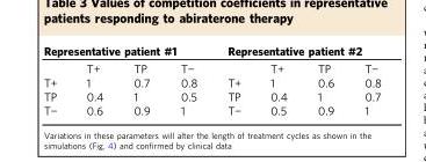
<table><thead><tr><td colspan="4">Representative patient #1</td><td colspan="4">Representative patient #2</td></tr><tr><td></td><td>T+</td><td>TP</td><td>T−</td><td></td><td>T+</td><td>TP</td><td>T−</td></tr></thead><tbody><tr><td>T+</td><td>1</td><td>0.7</td><td>0.8</td><td>T+</td><td>1</td><td>0.6</td><td>0.8</td></tr><tr><td>TP</td><td>0.4</td><td>1</td><td>0.5</td><td>TP</td><td>0.4</td><td>1</td><td>0.7</td></tr><tr><td>T−</td><td>0.6</td><td>0.9</td><td>1</td><td>T−</td><td>0.5</td><td>0.9</td><td>1</td></tr></tbody></table>